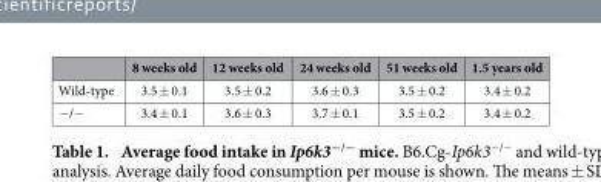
<table><thead><tr><td></td><td>8 weeks old</td><td>12 weeks old</td><td>24 weeks old</td><td>51 weeks old</td><td>1.5 years old</td></tr></thead><tbody><tr><td>Wild-type</td><td>3.5 ± 0.1</td><td>3.5 ± 0.2</td><td>3.6 ± 0.3</td><td>3.5 ± 0.2</td><td>3.4 ± 0.2</td></tr><tr><td>− /−</td><td>3.4 ± 0.1</td><td>3.6 ± 0.3</td><td>3.7 ± 0.1</td><td>3.5 ± 0.2</td><td>3.4 ± 0.2</td></tr></tbody></table>